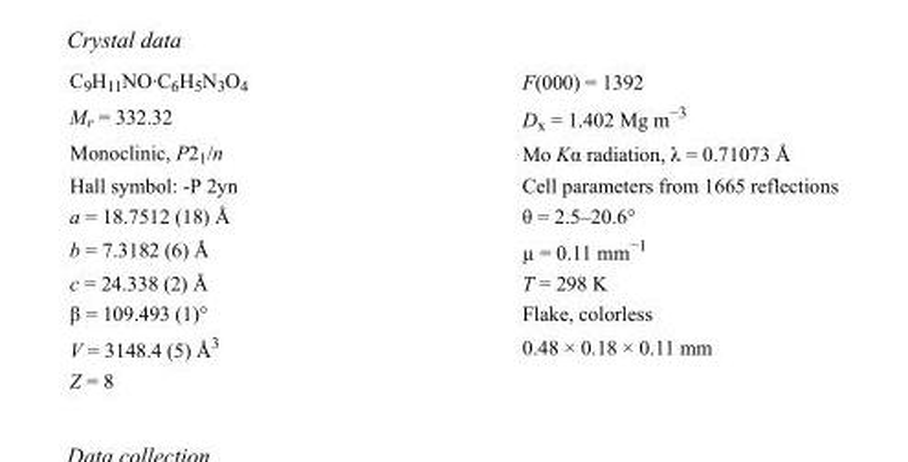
<table><tbody><tr><td>C<sub>9</sub>H<sub>11</sub>NO·C<sub>6</sub>H<sub>5</sub>N<sub>3</sub>O<sub>4</sub></td><td>F(000) = 1392</td></tr><tr><td>M<sub>r</sub> = 332.32</td><td>D<sub>x</sub> = 1.402 Mg m<sup>−3</sup></td></tr><tr><td>Monoclinic, P2<sub>1</sub>/n</td><td>Mo Kα radiation, λ = 0.71073 Å</td></tr><tr><td>Hall symbol: -P 2yn</td><td>Cell parameters from 1665 reflections</td></tr><tr><td>a = 18.7512 (18) Å</td><td>θ = 2.5–20.6°</td></tr><tr><td>b = 7.3182 (6) Å</td><td>µ = 0.11 mm<sup>−1</sup></td></tr><tr><td>c = 24.338 (2) Å</td><td>T = 298 K</td></tr><tr><td>β = 109.493 (1)°</td><td>Flake, colorless</td></tr><tr><td>V = 3148.4 (5) Å<sup>3</sup></td><td>0.48 × 0.18 × 0.11 mm</td></tr><tr><td>Z = 8</td><td></td></tr></tbody></table>